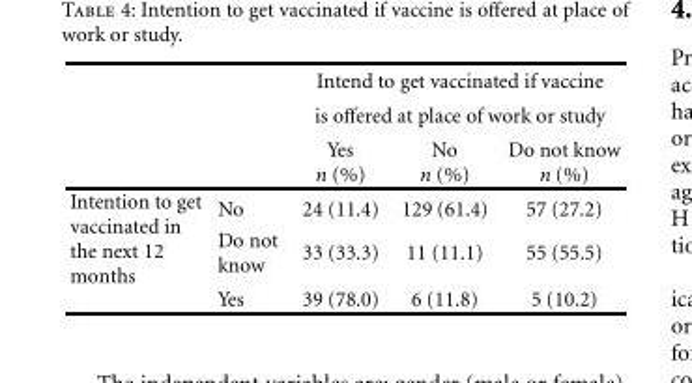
<table><thead><tr><td rowspan="3"></td><td rowspan="3"></td><td rowspan="2" colspan="3">Intend to get vaccinated if vaccine is offered at place of work or study</td></tr><tr></tr><tr><td>Yes n (%)</td><td>No n (%)</td><td>Do not know n (%)</td></tr></thead><tbody><tr><td rowspan="3">Intention to get vaccinated in the next 12 months</td><td>No</td><td>24 (11.4)</td><td>129 (61.4)</td><td>57 (27.2)</td></tr><tr><td>Do not know</td><td>33 (33.3)</td><td>11 (11.1)</td><td>55 (55.5)</td></tr><tr><td>Yes</td><td>39 (78.0)</td><td>6 (11.8)</td><td>5 (10.2)</td></tr></tbody></table>